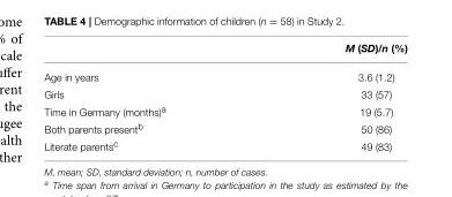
<table><thead><tr><td></td><td>M (SD)/n (%)</td></tr></thead><tbody><tr><td>Age in years</td><td>3.6 (1.2)</td></tr><tr><td>Girls</td><td>33 (57)</td></tr><tr><td>Time in Germany (months)<sup>a</sup></td><td>19 (5.7)</td></tr><tr><td>Both parents present<sup>b</sup></td><td>50 (86)</td></tr><tr><td>Literate parents<sup>c</sup></td><td>49 (83)</td></tr></tbody></table>